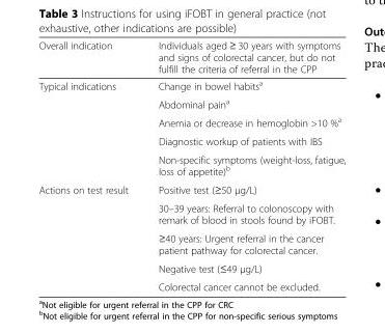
<table><thead><tr><td>Overall indication</td><td>Individuals aged ≥ 30 years with symptoms and signs of colorectal cancer, but do not fulfill the criteria of referral in the CPP</td></tr></thead><tbody><tr><td rowspan="5">Typical indications</td><td>Change in bowel habits<sup>a</sup></td></tr><tr><td>Abdominal pain<sup>a</sup></td></tr><tr><td>Anemia or decrease in hemoglobin &gt;10 %<sup>a</sup></td></tr><tr><td>Diagnostic workup of patients with IBS</td></tr><tr><td>Non-specific symptoms (weight-loss, fatigue, loss of appetite)<sup>b</sup></td></tr><tr><td rowspan="5">Actions on test result</td><td>Positive test (≥50 μg/L)</td></tr><tr><td>30–39 years: Referral to colonoscopy with remark of blood in stools found by iFOBT.</td></tr><tr><td>≥40 years: Urgent referral in the cancer patient pathway for colorectal cancer.</td></tr><tr><td>Negative test (≤49 μg/L)</td></tr><tr><td>Colorectal cancer cannot be excluded.</td></tr></tbody></table>